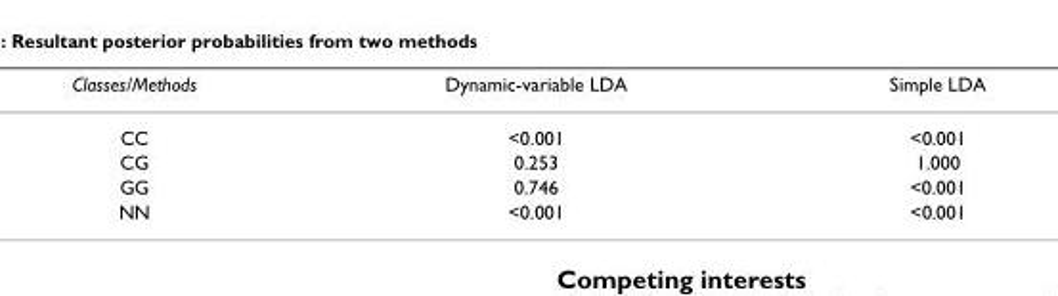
<table><thead><tr><td>Classes/Methods</td><td>Dynamic-variable LDA</td><td>Simple LDA</td></tr></thead><tbody><tr><td>CC</td><td>&lt;0.001</td><td>&lt;0.001</td></tr><tr><td>CG</td><td>0.253</td><td>1.000</td></tr><tr><td>GG</td><td>0.746</td><td>&lt;0.001</td></tr><tr><td>NN</td><td>&lt;0.001</td><td>&lt;0.001</td></tr></tbody></table>